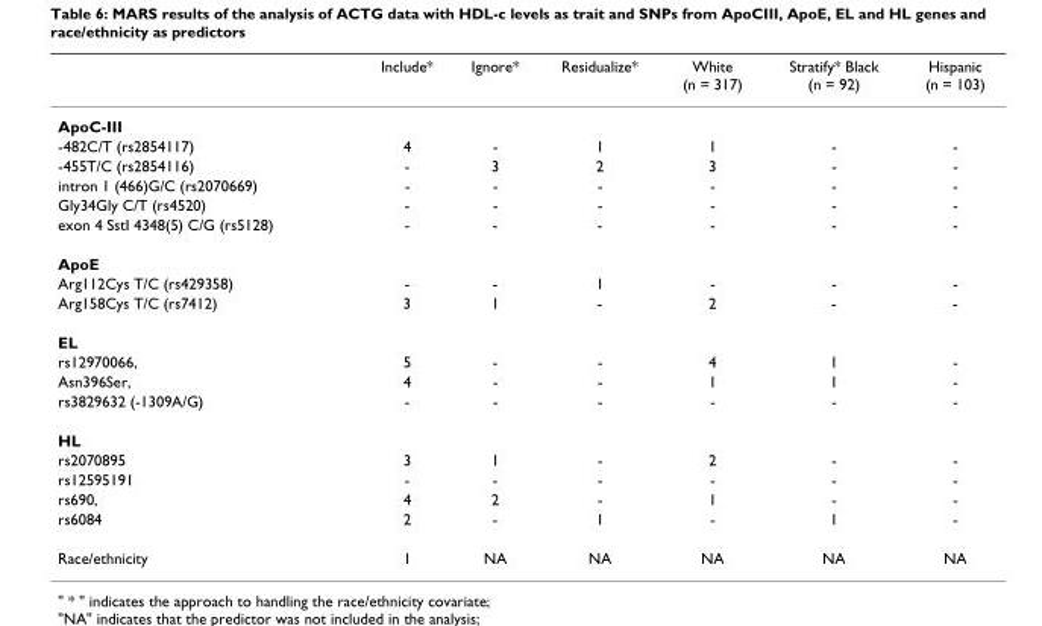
<table><thead><tr><td></td><td>Include*</td><td>Ignore*</td><td>Residualize*</td><td>White (n = 317)</td><td>Stratify* Black (n = 92)</td><td>Hispanic (n = 103)</td></tr></thead><tbody><tr><td colspan="7">ApoC-III</td></tr><tr><td>-482C/T (rs2854117)</td><td>4</td><td>-</td><td>1</td><td>1</td><td>-</td><td>-</td></tr><tr><td>-455T/C (rs2854116)</td><td>-</td><td>3</td><td>2</td><td>3</td><td>-</td><td>-</td></tr><tr><td>intron 1 (466)G/C (rs2070669)</td><td>-</td><td>-</td><td>-</td><td>-</td><td>-</td><td>-</td></tr><tr><td>Gly34Gly C/T (rs4520)</td><td>-</td><td>-</td><td>-</td><td>-</td><td>-</td><td>-</td></tr><tr><td>exon 4 SstI 4348(5) C/G (rs5128)</td><td>-</td><td>-</td><td>-</td><td>-</td><td>-</td><td>-</td></tr><tr><td colspan="7">ApoE</td></tr><tr><td>Arg112Cys T/C (rs429358)</td><td>-</td><td>-</td><td>1</td><td>-</td><td>-</td><td>-</td></tr><tr><td>Arg158Cys T/C (rs7412)</td><td>3</td><td>1</td><td>-</td><td>2</td><td>-</td><td>-</td></tr><tr><td colspan="7">EL</td></tr><tr><td>rs12970066,</td><td>5</td><td>-</td><td>-</td><td>4</td><td>1</td><td>-</td></tr><tr><td>Asn396Ser,</td><td>4</td><td>-</td><td>-</td><td>1</td><td>1</td><td>-</td></tr><tr><td>rs3829632 (-1309A/G)</td><td>-</td><td>-</td><td>-</td><td>-</td><td>-</td><td>-</td></tr><tr><td colspan="7">HL</td></tr><tr><td>rs2070895</td><td>3</td><td>1</td><td>-</td><td>2</td><td>-</td><td>-</td></tr><tr><td>rs12595191</td><td>-</td><td>-</td><td>-</td><td>-</td><td>-</td><td>-</td></tr><tr><td>rs690,</td><td>4</td><td>2</td><td>-</td><td>1</td><td>-</td><td>-</td></tr><tr><td>rs6084</td><td>2</td><td>-</td><td>1</td><td>-</td><td>1</td><td>-</td></tr><tr><td>Race/ethnicity</td><td>1</td><td>NA</td><td>NA</td><td>NA</td><td>NA</td><td>NA</td></tr></tbody></table>